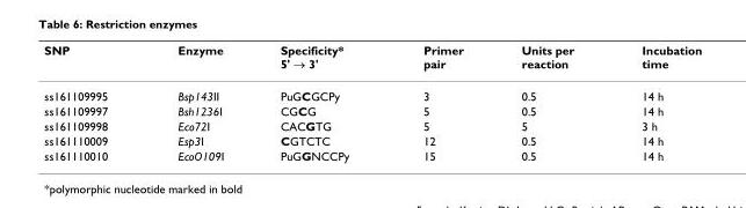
<table><thead><tr><td>SNP</td><td>Enzyme</td><td>Specificity* 5&#x27; → 3&#x27;</td><td>Primer pair</td><td>Units per reaction</td><td>Incubation time</td></tr></thead><tbody><tr><td>ss161109995</td><td>Bsp143II</td><td>PuGCGCPy</td><td>3</td><td>0.5</td><td>14 h</td></tr><tr><td>ss161109997</td><td>Bsh1236I</td><td>CGCG</td><td>5</td><td>0.5</td><td>14 h</td></tr><tr><td>ss161109998</td><td>Eco72I</td><td>CACGTG</td><td>5</td><td>5</td><td>3 h</td></tr><tr><td>ss161110009</td><td>Esp3I</td><td>CGTCTC</td><td>12</td><td>0.5</td><td>14 h</td></tr><tr><td>ss161110010</td><td>EcoO109I</td><td>PuGGNCCPy</td><td>15</td><td>0.5</td><td>14 h</td></tr></tbody></table>